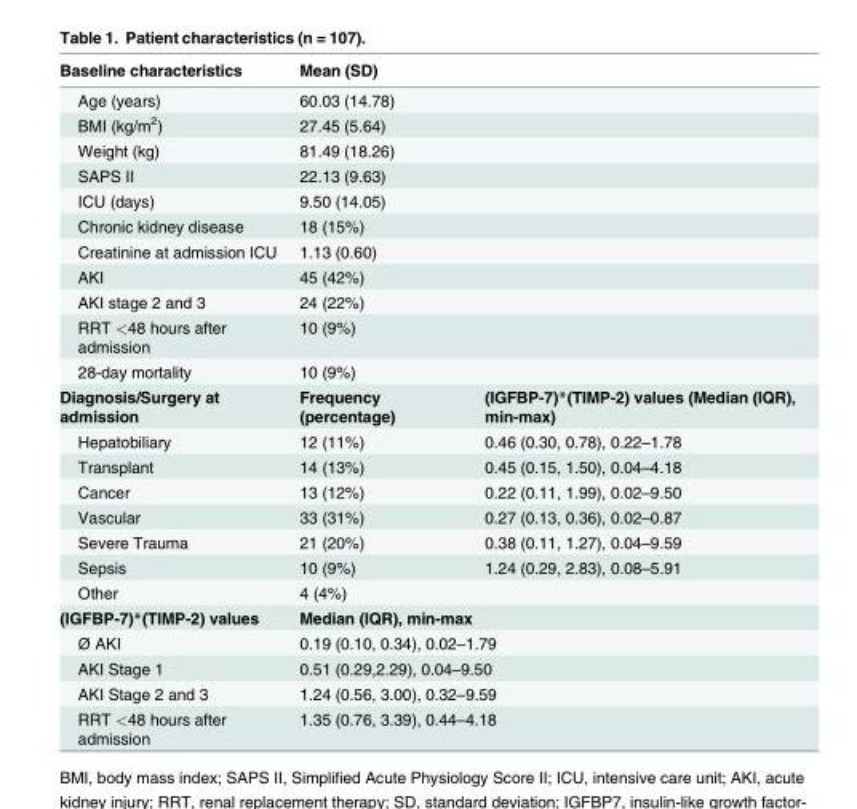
<table><thead><tr><td>Baseline characteristics</td><td colspan="2">Mean (SD)</td></tr></thead><tbody><tr><td>Age (years)</td><td colspan="2">60.03 (14.78)</td></tr><tr><td>BMI (kg/m<sup>2</sup>)</td><td colspan="2">27.45 (5.64)</td></tr><tr><td>Weight (kg)</td><td colspan="2">81.49 (18.26)</td></tr><tr><td>SAPS II</td><td colspan="2">22.13 (9.63)</td></tr><tr><td>ICU (days)</td><td colspan="2">9.50 (14.05)</td></tr><tr><td>Chronic kidney disease</td><td colspan="2">18 (15%)</td></tr><tr><td>Creatinine at admission ICU</td><td colspan="2">1.13 (0.60)</td></tr><tr><td>AKI</td><td colspan="2">45 (42%)</td></tr><tr><td>AKI stage 2 and 3</td><td colspan="2">24 (22%)</td></tr><tr><td>RRT &lt;48 hours after admission</td><td colspan="2">10 (9%)</td></tr><tr><td>28-day mortality</td><td colspan="2">10 (9%)</td></tr><tr><td>Diagnosis/Surgery at admission</td><td>Frequency (percentage)</td><td>(IGFBP-7)*(TIMP-2) values (Median (IQR), min-max)</td></tr><tr><td>Hepatobiliary</td><td>12 (11%)</td><td>0.46 (0.30, 0.78), 0.22–1.78</td></tr><tr><td>Transplant</td><td>14 (13%)</td><td>0.45 (0.15, 1.50), 0.04–4.18</td></tr><tr><td>Cancer</td><td>13 (12%)</td><td>0.22 (0.11, 1.99), 0.02–9.50</td></tr><tr><td>Vascular</td><td>33 (31%)</td><td>0.27 (0.13, 0.36), 0.02–0.87</td></tr><tr><td>Severe Trauma</td><td>21 (20%)</td><td>0.38 (0.11, 1.27), 0.04–9.59</td></tr><tr><td>Sepsis</td><td>10 (9%)</td><td>1.24 (0.29, 2.83), 0.08–5.91</td></tr><tr><td>Other</td><td>4 (4%)</td><td></td></tr><tr><td>(IGFBP-7)*(TIMP-2) values</td><td colspan="2">Median (IQR), min-max</td></tr><tr><td>Ø AKI</td><td colspan="2">0.19 (0.10, 0.34), 0.02–1.79</td></tr><tr><td>AKI Stage 1</td><td colspan="2">0.51 (0.29,2.29), 0.04–9.50</td></tr><tr><td>AKI Stage 2 and 3</td><td colspan="2">1.24 (0.56, 3.00), 0.32–9.59</td></tr><tr><td>RRT &lt;48 hours after admission</td><td colspan="2">1.35 (0.76, 3.39), 0.44–4.18</td></tr></tbody></table>